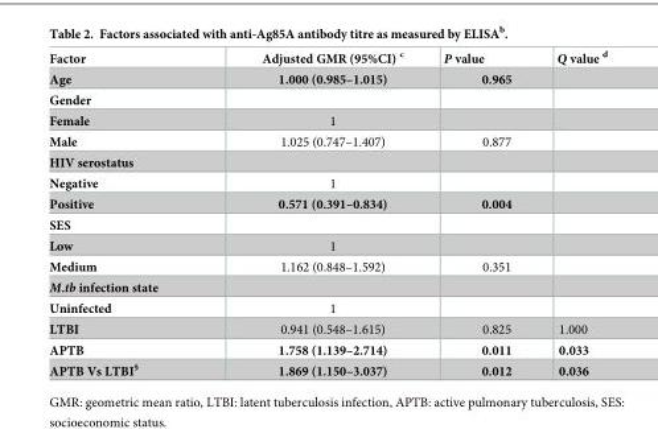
<table><thead><tr><td>Factor</td><td>Adjusted GMR (95%CI) <sup>c</sup></td><td>P value</td><td>Q value <sup>d</sup></td></tr></thead><tbody><tr><td>Age</td><td>1.000 (0.985–1.015)</td><td>0.965</td><td></td></tr><tr><td colspan="4">Gender</td></tr><tr><td>Female</td><td>1</td><td></td><td></td></tr><tr><td>Male</td><td>1.025 (0.747–1.407)</td><td>0.877</td><td></td></tr><tr><td colspan="4">HIV serostatus</td></tr><tr><td>Negative</td><td>1</td><td></td><td></td></tr><tr><td>Positive</td><td>0.571 (0.391–0.834)</td><td>0.004</td><td></td></tr><tr><td colspan="4">SES</td></tr><tr><td>Low</td><td>1</td><td></td><td></td></tr><tr><td>Medium</td><td>1.162 (0.848–1.592)</td><td>0.351</td><td></td></tr><tr><td colspan="4">M.tb infection state</td></tr><tr><td>Uninfected</td><td>1</td><td></td><td></td></tr><tr><td>LTBI</td><td>0.941 (0.548–1.615)</td><td>0.825</td><td>1.000</td></tr><tr><td>APTB</td><td>1.758 (1.139–2.714)</td><td>0.011</td><td>0.033</td></tr><tr><td>APTB Vs LTBI<sup>§</sup></td><td>1.869 (1.150–3.037)</td><td>0.012</td><td>0.036</td></tr></tbody></table>